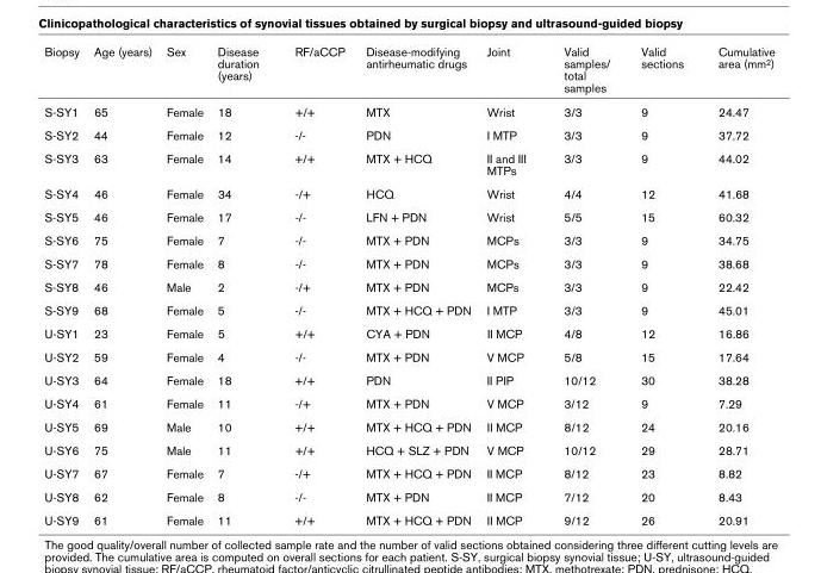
<table><thead><tr><td>Biopsy</td><td>Age (years)</td><td>Sex</td><td>Disease duration (years)</td><td>RF/aCCP</td><td>Disease-modifying antirheumatic drugs</td><td>Joint</td><td>Valid samples/ total samples</td><td>Valid sections</td><td>Cumulative area (mm<sup>2</sup>)</td></tr></thead><tbody><tr><td>S-SY1</td><td>65</td><td>Female</td><td>18</td><td>+/+</td><td>MTX</td><td>Wrist</td><td>3/3</td><td>9</td><td>24.47</td></tr><tr><td>S-SY2</td><td>44</td><td>Female</td><td>12</td><td>-/-</td><td>PDN</td><td>I MTP</td><td>3/3</td><td>9</td><td>37.72</td></tr><tr><td>S-SY3</td><td>63</td><td>Female</td><td>14</td><td>+/+</td><td>MTX + HCQ</td><td>II and III MTPs</td><td>3/3</td><td>9</td><td>44.02</td></tr><tr><td>S-SY4</td><td>46</td><td>Female</td><td>34</td><td>-/+</td><td>HCQ</td><td>Wrist</td><td>4/4</td><td>12</td><td>41.68</td></tr><tr><td>S-SY5</td><td>46</td><td>Female</td><td>17</td><td>-/-</td><td>LFN + PDN</td><td>Wrist</td><td>5/5</td><td>15</td><td>60.32</td></tr><tr><td>S-SY6</td><td>75</td><td>Female</td><td>7</td><td>-/-</td><td>MTX + PDN</td><td>MCPs</td><td>3/3</td><td>9</td><td>34.75</td></tr><tr><td>S-SY7</td><td>78</td><td>Female</td><td>8</td><td>-/-</td><td>MTX + PDN</td><td>MCPs</td><td>3/3</td><td>9</td><td>38.68</td></tr><tr><td>S-SY8</td><td>46</td><td>Male</td><td>2</td><td>-/+</td><td>MTX + PDN</td><td>MCPs</td><td>3/3</td><td>9</td><td>22.42</td></tr><tr><td>S-SY9</td><td>68</td><td>Female</td><td>5</td><td>-/-</td><td>MTX + HCQ + PDN</td><td>I MTP</td><td>3/3</td><td>9</td><td>45.01</td></tr><tr><td>U-SY1</td><td>23</td><td>Female</td><td>5</td><td>+/+</td><td>CYA + PDN</td><td>II MCP</td><td>4/8</td><td>12</td><td>16.86</td></tr><tr><td>U-SY2</td><td>59</td><td>Female</td><td>4</td><td>-/-</td><td>MTX + PDN</td><td>V MCP</td><td>5/8</td><td>15</td><td>17.64</td></tr><tr><td>U-SY3</td><td>64</td><td>Female</td><td>18</td><td>+/+</td><td>PDN</td><td>II PIP</td><td>10/12</td><td>30</td><td>38.28</td></tr><tr><td>U-SY4</td><td>61</td><td>Female</td><td>11</td><td>-/+</td><td>MTX + PDN</td><td>V MCP</td><td>3/12</td><td>9</td><td>7.29</td></tr><tr><td>U-SY5</td><td>69</td><td>Male</td><td>10</td><td>+/+</td><td>MTX + HCQ + PDN</td><td>II MCP</td><td>8/12</td><td>24</td><td>20.16</td></tr><tr><td>U-SY6</td><td>75</td><td>Male</td><td>11</td><td>+/+</td><td>HCQ + SLZ + PDN</td><td>V MCP</td><td>10/12</td><td>29</td><td>28.71</td></tr><tr><td>U-SY7</td><td>67</td><td>Female</td><td>7</td><td>-/+</td><td>MTX + HCQ + PDN</td><td>II MCP</td><td>8/12</td><td>23</td><td>8.82</td></tr><tr><td>U-SY8</td><td>62</td><td>Female</td><td>8</td><td>-/-</td><td>MTX + PDN</td><td>II MCP</td><td>7/12</td><td>20</td><td>8.43</td></tr><tr><td>U-SY9</td><td>61</td><td>Female</td><td>11</td><td>+/+</td><td>MTX + HCQ + PDN</td><td>II MCP</td><td>9/12</td><td>26</td><td>20.91</td></tr></tbody></table>